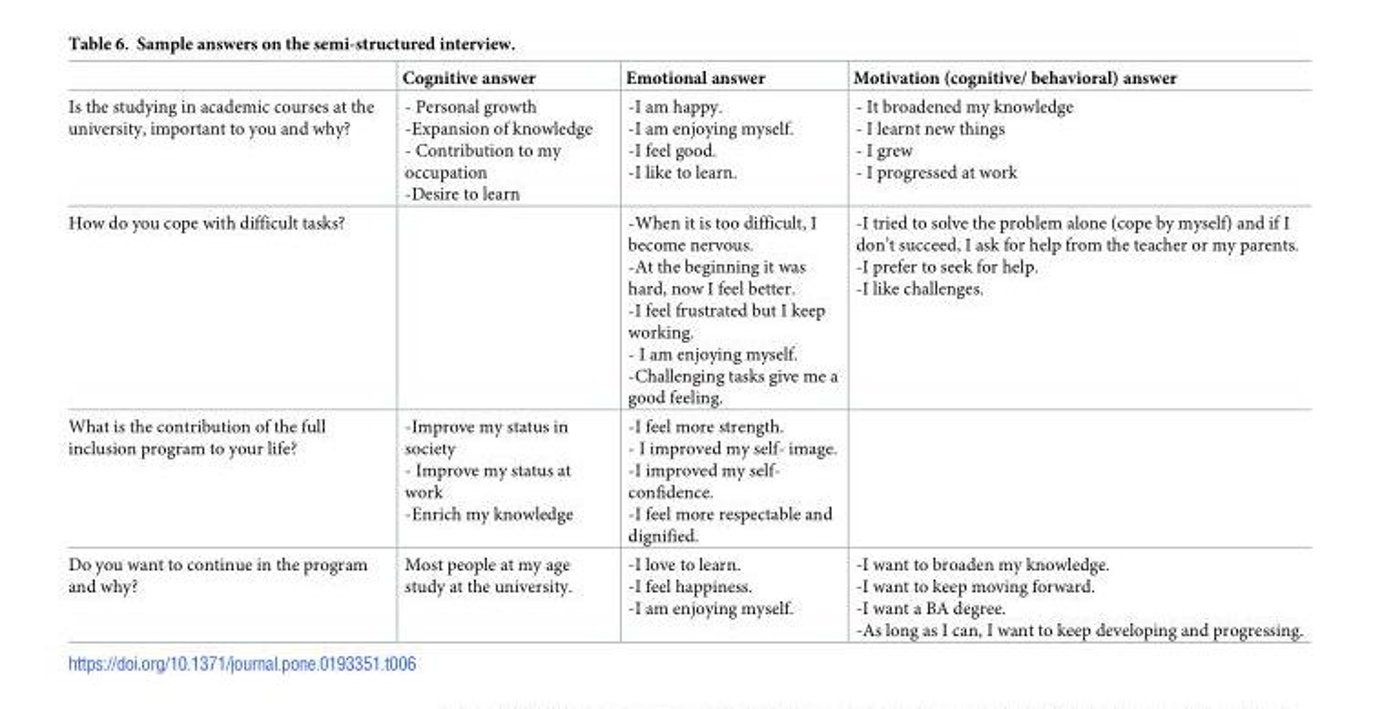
<table><thead><tr><td></td><td>Cognitive answer</td><td>Emotional answer</td><td>Motivation (cognitive/ behavioral) answer</td></tr></thead><tbody><tr><td>Is the studying in academic courses at the university, important to you and why?</td><td>- Personal growth -Expansion of knowledge - Contribution to my occupation -Desire to learn</td><td>-I am happy. -I am enjoying myself. -I feel good. -I like to learn.</td><td>- It broadened my knowledge - I learnt new things - I grew - I progressed at work</td></tr><tr><td>How do you cope with difficult tasks?</td><td></td><td>-When it is too difficult, I become nervous. -At the beginning it was hard, now I feel better. -I feel frustrated but I keep working. - I am enjoying myself. -Challenging tasks give me a good feeling.</td><td>-I tried to solve the problem alone (cope by myself) and if I don’t succeed, I ask for help from the teacher or my parents. -I prefer to seek for help. -I like challenges.</td></tr><tr><td>What is the contribution of the full inclusion program to your life?</td><td>-Improve my status in society - Improve my status at work -Enrich my knowledge</td><td>-I feel more strength. - I improved my self- image. -I improved my self- confidence. -I feel more respectable and dignified.</td><td></td></tr><tr><td>Do you want to continue in the program and why?</td><td>Most people at my age study at the university.</td><td>-I love to learn. -I feel happiness. -I am enjoying myself.</td><td>-I want to broaden my knowledge. -I want to keep moving forward. -I want a BA degree. -As long as I can, I want to keep developing and progressing.</td></tr></tbody></table>